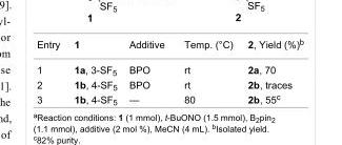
<table><tbody><tr><td>Entry</td><td>1</td><td>Additive</td><td>Temp. (°C)</td><td>2, Yield (%)<sup>b</sup></td></tr><tr><td>1</td><td>1a, 3-SF<sub>5</sub></td><td>BPO</td><td>rt</td><td>2a, 70</td></tr><tr><td>2</td><td>1b, 4-SF<sub>5</sub></td><td>BPO</td><td>rt</td><td>2b, traces</td></tr><tr><td>3</td><td>1b, 4-SF<sub>5</sub></td><td>—</td><td>80</td><td>2b, 55<sup>c</sup></td></tr></tbody></table>